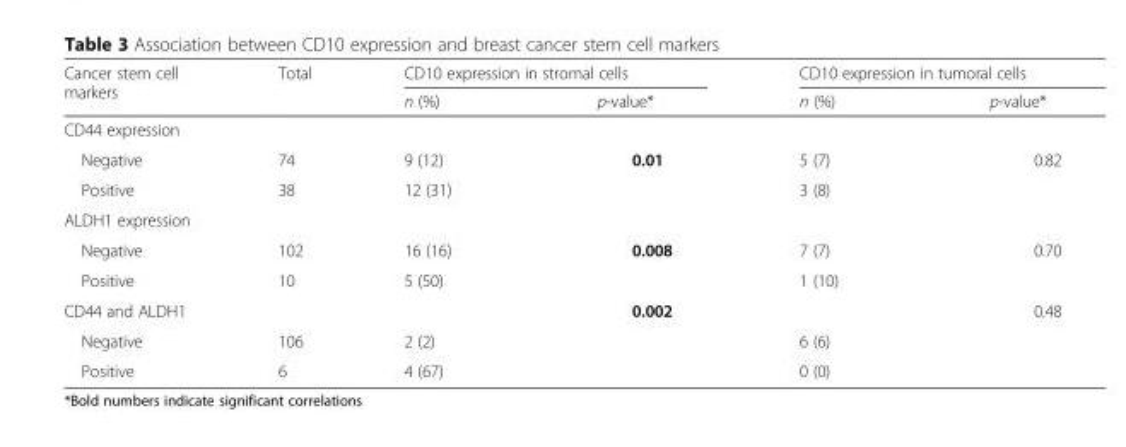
<table><thead><tr><td rowspan="2">Cancer stem cell markers</td><td rowspan="2">Total</td><td colspan="2">CD10 expression in stromal cells</td><td colspan="2">CD10 expression in tumoral cells</td></tr><tr><td>n (%)</td><td>p-value*</td><td>n (%)</td><td>p-value*</td></tr></thead><tbody><tr><td colspan="6">CD44 expression</td></tr><tr><td>Negative</td><td>74</td><td>9 (12)</td><td>0.01</td><td>5 (7)</td><td>0.82</td></tr><tr><td>Positive</td><td>38</td><td>12 (31)</td><td></td><td>3 (8)</td><td></td></tr><tr><td colspan="6">ALDH1 expression</td></tr><tr><td>Negative</td><td>102</td><td>16 (16)</td><td>0.008</td><td>7 (7)</td><td>0.70</td></tr><tr><td>Positive</td><td>10</td><td>5 (50)</td><td></td><td>1 (10)</td><td></td></tr><tr><td>CD44 and ALDH1</td><td></td><td></td><td>0.002</td><td></td><td>0.48</td></tr><tr><td>Negative</td><td>106</td><td>2 (2)</td><td></td><td>6 (6)</td><td></td></tr><tr><td>Positive</td><td>6</td><td>4 (67)</td><td></td><td>0 (0)</td><td></td></tr></tbody></table>